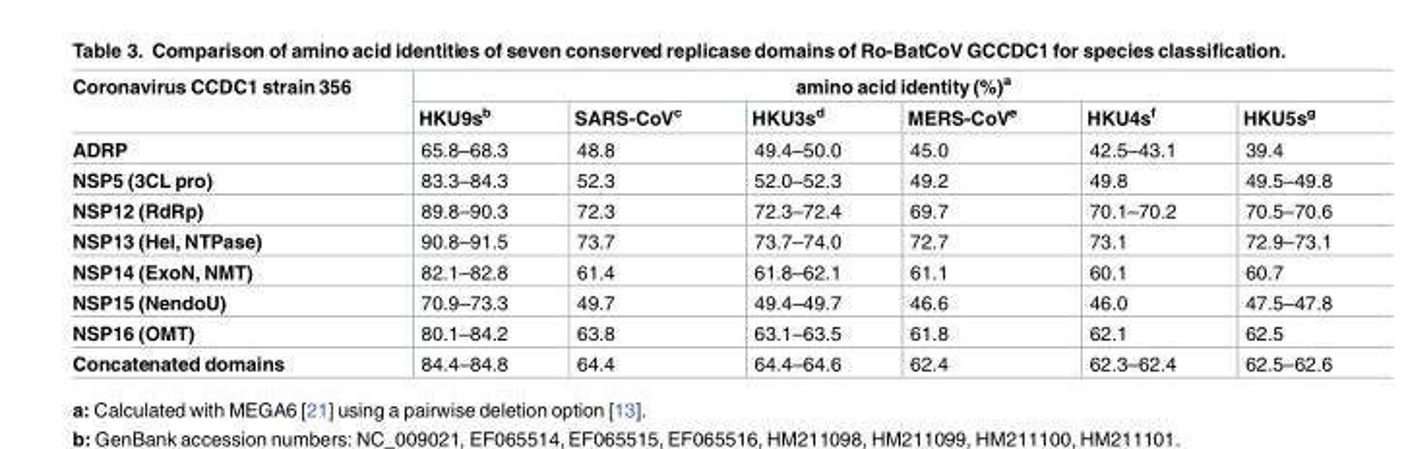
<table><thead><tr><td rowspan="2">Coronavirus CCDC1 strain 356</td><td colspan="6">amino acid identity (%)<sup>a</sup></td></tr><tr><td>HKU9s<sup>b</sup></td><td>SARS-CoV<sup>c</sup></td><td>HKU3s<sup>d</sup></td><td>MERS-CoV<sup>e</sup></td><td>HKU4s<sup>f</sup></td><td>HKU5s<sup>g</sup></td></tr></thead><tbody><tr><td>ADRP</td><td>65.8–68.3</td><td>48.8</td><td>49.4–50.0</td><td>45.0</td><td>42.5–43.1</td><td>39.4</td></tr><tr><td>NSP5 (3CL pro)</td><td>83.3–84.3</td><td>52.3</td><td>52.0–52.3</td><td>49.2</td><td>49.8</td><td>49.5–49.8</td></tr><tr><td>NSP12 (RdRp)</td><td>89.8–90.3</td><td>72.3</td><td>72.3–72.4</td><td>69.7</td><td>70.1–70.2</td><td>70.5–70.6</td></tr><tr><td>NSP13 (Hel, NTPase)</td><td>90.8–91.5</td><td>73.7</td><td>73.7–74.0</td><td>72.7</td><td>73.1</td><td>72.9–73.1</td></tr><tr><td>NSP14 (ExoN, NMT)</td><td>82.1–82.8</td><td>61.4</td><td>61.8–62.1</td><td>61.1</td><td>60.1</td><td>60.7</td></tr><tr><td>NSP15 (NendoU)</td><td>70.9–73.3</td><td>49.7</td><td>49.4–49.7</td><td>46.6</td><td>46.0</td><td>47.5–47.8</td></tr><tr><td>NSP16 (OMT)</td><td>80.1–84.2</td><td>63.8</td><td>63.1–63.5</td><td>61.8</td><td>62.1</td><td>62.5</td></tr><tr><td>Concatenated domains</td><td>84.4–84.8</td><td>64.4</td><td>64.4–64.6</td><td>62.4</td><td>62.3–62.4</td><td>62.5–62.6</td></tr></tbody></table>